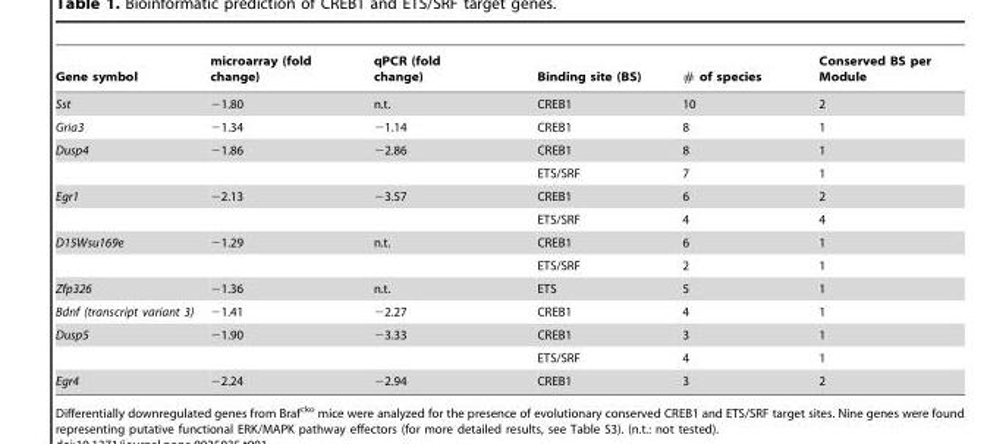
<table><thead><tr><td>Gene symbol</td><td>microarray (fold change)</td><td>qPCR (fold change)</td><td>Binding site (BS)</td><td># of species</td><td>Conserved BS per Module</td></tr></thead><tbody><tr><td>Sst</td><td>−1.80</td><td>n.t.</td><td>CREB1</td><td>10</td><td>2</td></tr><tr><td>Gria3</td><td>−1.34</td><td>−1.14</td><td>CREB1</td><td>8</td><td>1</td></tr><tr><td rowspan="2">Dusp4</td><td>−1.86</td><td>−2.86</td><td>CREB1</td><td>8</td><td>1</td></tr><tr><td></td><td></td><td>ETS/SRF</td><td>7</td><td>1</td></tr><tr><td rowspan="2">Egr1</td><td>−2.13</td><td>−3.57</td><td>CREB1</td><td>6</td><td>2</td></tr><tr><td></td><td></td><td>ETS/SRF</td><td>4</td><td>4</td></tr><tr><td rowspan="2">D15Wsu169e</td><td>−1.29</td><td>n.t.</td><td>CREB1</td><td>6</td><td>1</td></tr><tr><td></td><td></td><td>ETS/SRF</td><td>2</td><td>1</td></tr><tr><td>Zfp326</td><td>−1.36</td><td>n.t.</td><td>ETS</td><td>5</td><td>1</td></tr><tr><td>Bdnf (transcript variant 3)</td><td>−1.41</td><td>−2.27</td><td>CREB1</td><td>4</td><td>1</td></tr><tr><td rowspan="2">Dusp5</td><td>−1.90</td><td>−3.33</td><td>CREB1</td><td>3</td><td>1</td></tr><tr><td></td><td></td><td>ETS/SRF</td><td>4</td><td>1</td></tr><tr><td>Egr4</td><td>−2.24</td><td>−2.94</td><td>CREB1</td><td>3</td><td>2</td></tr></tbody></table>